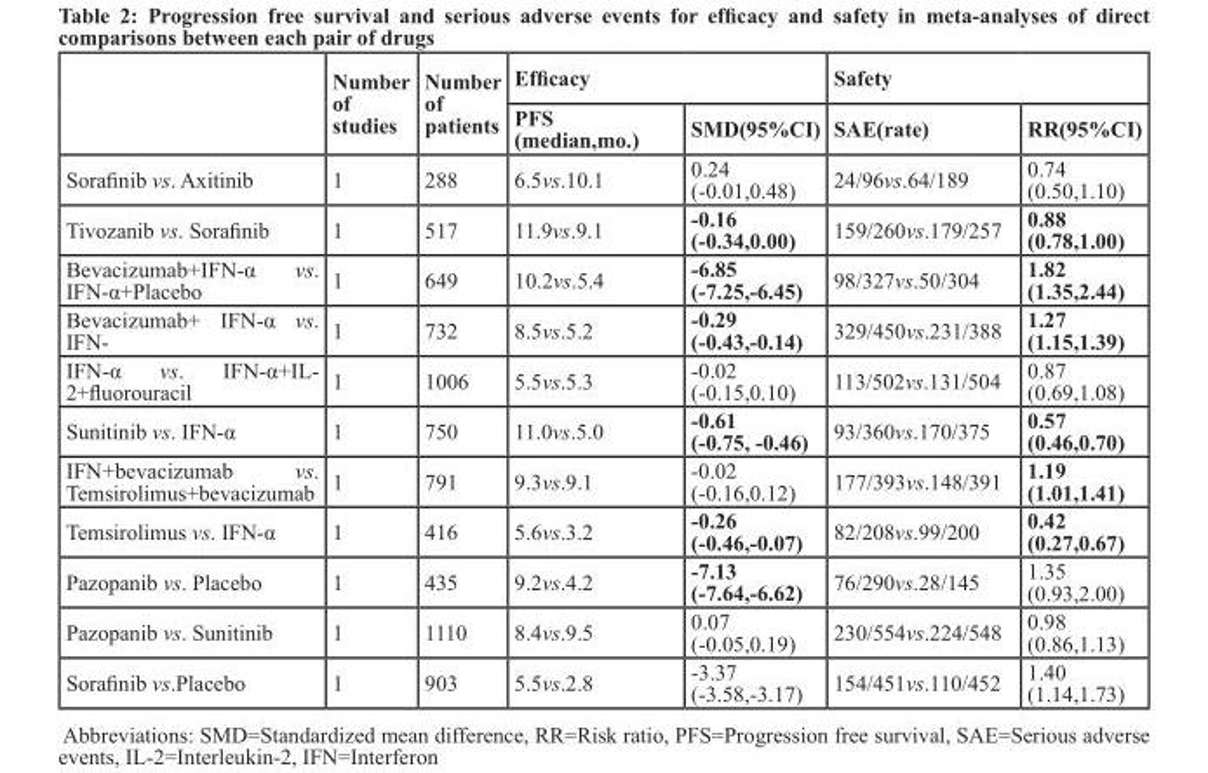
<table><thead><tr><td rowspan="2"></td><td rowspan="2">Number of studies</td><td rowspan="2">Number of patients</td><td colspan="2">Efficacy</td><td colspan="2">Safety</td></tr><tr><td>PFS (median,mo.)</td><td>SMD(95%CI)</td><td>SAE(rate)</td><td>RR(95%CI)</td></tr></thead><tbody><tr><td>Sorafinib vs. Axitinib</td><td>1</td><td>288</td><td>6.5vs.10.1</td><td>0.24 (-0.01,0.48)</td><td>24/96vs.64/189</td><td>0.74 (0.50,1.10)</td></tr><tr><td>Tivozanib vs. Sorafinib</td><td>1</td><td>517</td><td>11.9vs.9.1</td><td>-0.16 (-0.34,0.00)</td><td>159/260vs.179/257</td><td>0.88 (0.78,1.00)</td></tr><tr><td>Bevacizumab+IFN-α vs. IFN-α+Placebo</td><td>1</td><td>649</td><td>10.2vs.5.4</td><td>-6.85 (-7.25,-6.45)</td><td>98/327vs.50/304</td><td>1.82 (1.35,2.44)</td></tr><tr><td>Bevacizumab+ IFN-α vs. IFN-</td><td>1</td><td>732</td><td>8.5vs.5.2</td><td>-0.29 (-0.43,-0.14)</td><td>329/450vs.231/388</td><td>1.27 (1.15,1.39)</td></tr><tr><td>IFN-α vs. IFN-α+IL- 2+fluorouracil</td><td>1</td><td>1006</td><td>5.5vs.5.3</td><td>-0.02 (-0.15,0.10)</td><td>113/502vs.131/504</td><td>0.87 (0.69,1.08)</td></tr><tr><td>Sunitinib vs. IFN-α</td><td>1</td><td>750</td><td>11.0vs.5.0</td><td>-0.61 (-0.75, -0.46)</td><td>93/360vs.170/375</td><td>0.57 (0.46,0.70)</td></tr><tr><td>IFN+bevacizumab vs. Temsirolimus+bevacizumab</td><td>1</td><td>791</td><td>9.3vs.9.1</td><td>-0.02 (-0.16,0.12)</td><td>177/393vs.148/391</td><td>1.19 (1.01,1.41)</td></tr><tr><td>Temsirolimus vs. IFN-α</td><td>1</td><td>416</td><td>5.6vs.3.2</td><td>-0.26 (-0.46,-0.07)</td><td>82/208vs.99/200</td><td>0.42 (0.27,0.67)</td></tr><tr><td>Pazopanib vs. Placebo</td><td>1</td><td>435</td><td>9.2vs.4.2</td><td>-7.13 (-7.64,-6.62)</td><td>76/290vs.28/145</td><td>1.35 (0.93,2.00)</td></tr><tr><td>Pazopanib vs. Sunitinib</td><td>1</td><td>1110</td><td>8.4vs.9.5</td><td>0.07 (-0.05,0.19)</td><td>230/554vs.224/548</td><td>0.98 (0.86,1.13)</td></tr><tr><td>Sorafinib vs.Placebo</td><td>1</td><td>903</td><td>5.5vs.2.8</td><td>-3.37 (-3.58,-3.17)</td><td>154/451vs.110/452</td><td>1.40 (1.14,1.73)</td></tr></tbody></table>